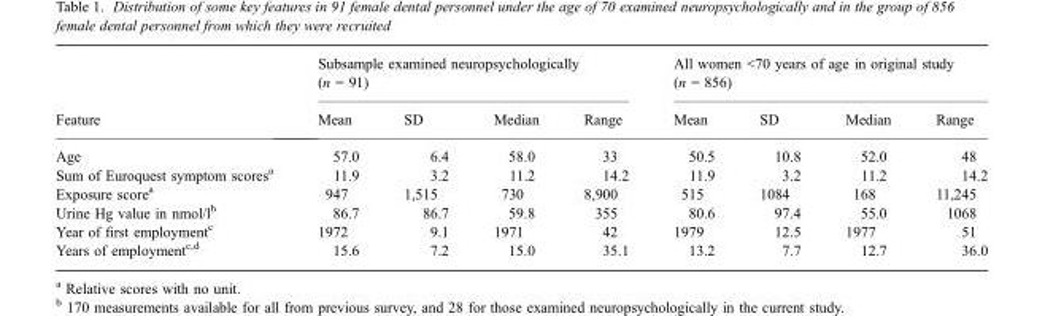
<table><thead><tr><td rowspan="2">Feature</td><td colspan="4">Subsample examined neuropsychologically (n = 91)</td><td colspan="4">All women &lt;70 years of age in original study (n = 856)</td></tr><tr><td>Mean</td><td>SD</td><td>Median</td><td>Range</td><td>Mean</td><td>SD</td><td>Median</td><td>Range</td></tr></thead><tbody><tr><td>Age</td><td>57.0</td><td>6.4</td><td>58.0</td><td>33</td><td>50.5</td><td>10.8</td><td>52.0</td><td>48</td></tr><tr><td>Sum of Euroquest symptom scores<sup>a</sup></td><td>11.9</td><td>3.2</td><td>11.2</td><td>14.2</td><td>11.9</td><td>3.2</td><td>11.2</td><td>14.2</td></tr><tr><td>Exposure score<sup>a</sup></td><td>947</td><td>1,515</td><td>730</td><td>8,900</td><td>515</td><td>1084</td><td>168</td><td>11,245</td></tr><tr><td>Urine Hg value in nmol/l<sup>b</sup></td><td>86.7</td><td>86.7</td><td>59.8</td><td>355</td><td>80.6</td><td>97.4</td><td>55.0</td><td>1068</td></tr><tr><td>Year of first employment<sup>c</sup></td><td>1972</td><td>9.1</td><td>1971</td><td>42</td><td>1979</td><td>12.5</td><td>1977</td><td>51</td></tr><tr><td>Years of employment<sup>c,d</sup></td><td>15.6</td><td>7.2</td><td>15.0</td><td>35.1</td><td>13.2</td><td>7.7</td><td>12.7</td><td>36.0</td></tr></tbody></table>